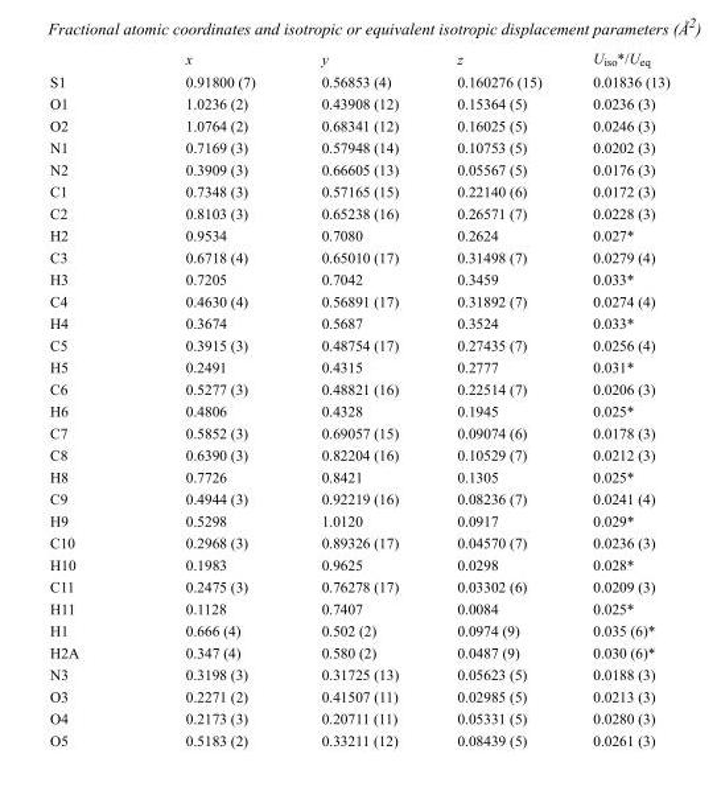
<table><thead><tr><td></td><td>x</td><td>y</td><td>z</td><td>U<sub>iso</sub>*/U<sub>eq</sub></td></tr></thead><tbody><tr><td>S1</td><td>0.91800 (7)</td><td>0.56853 (4)</td><td>0.160276 (15)</td><td>0.01836 (13)</td></tr><tr><td>O1</td><td>1.0236 (2)</td><td>0.43908 (12)</td><td>0.15364 (5)</td><td>0.0236 (3)</td></tr><tr><td>O2</td><td>1.0764 (2)</td><td>0.68341 (12)</td><td>0.16025 (5)</td><td>0.0246 (3)</td></tr><tr><td>N1</td><td>0.7169 (3)</td><td>0.57948 (14)</td><td>0.10753 (5)</td><td>0.0202 (3)</td></tr><tr><td>N2</td><td>0.3909 (3)</td><td>0.66605 (13)</td><td>0.05567 (5)</td><td>0.0176 (3)</td></tr><tr><td>C1</td><td>0.7348 (3)</td><td>0.57165 (15)</td><td>0.22140 (6)</td><td>0.0172 (3)</td></tr><tr><td>C2</td><td>0.8103 (3)</td><td>0.65238 (16)</td><td>0.26571 (7)</td><td>0.0228 (3)</td></tr><tr><td>H2</td><td>0.9534</td><td>0.7080</td><td>0.2624</td><td>0.027*</td></tr><tr><td>C3</td><td>0.6718 (4)</td><td>0.65010 (17)</td><td>0.31498 (7)</td><td>0.0279 (4)</td></tr><tr><td>H3</td><td>0.7205</td><td>0.7042</td><td>0.3459</td><td>0.033*</td></tr><tr><td>C4</td><td>0.4630 (4)</td><td>0.56891 (17)</td><td>0.31892 (7)</td><td>0.0274 (4)</td></tr><tr><td>H4</td><td>0.3674</td><td>0.5687</td><td>0.3524</td><td>0.033*</td></tr><tr><td>C5</td><td>0.3915 (3)</td><td>0.48754 (17)</td><td>0.27435 (7)</td><td>0.0256 (4)</td></tr><tr><td>H5</td><td>0.2491</td><td>0.4315</td><td>0.2777</td><td>0.031*</td></tr><tr><td>C6</td><td>0.5277 (3)</td><td>0.48821 (16)</td><td>0.22514 (7)</td><td>0.0206 (3)</td></tr><tr><td>H6</td><td>0.4806</td><td>0.4328</td><td>0.1945</td><td>0.025*</td></tr><tr><td>C7</td><td>0.5852 (3)</td><td>0.69057 (15)</td><td>0.09074 (6)</td><td>0.0178 (3)</td></tr><tr><td>C8</td><td>0.6390 (3)</td><td>0.82204 (16)</td><td>0.10529 (7)</td><td>0.0212 (3)</td></tr><tr><td>H8</td><td>0.7726</td><td>0.8421</td><td>0.1305</td><td>0.025*</td></tr><tr><td>C9</td><td>0.4944 (3)</td><td>0.92219 (16)</td><td>0.08236 (7)</td><td>0.0241 (4)</td></tr><tr><td>H9</td><td>0.5298</td><td>1.0120</td><td>0.0917</td><td>0.029*</td></tr><tr><td>C10</td><td>0.2968 (3)</td><td>0.89326 (17)</td><td>0.04570 (7)</td><td>0.0236 (3)</td></tr><tr><td>H10</td><td>0.1983</td><td>0.9625</td><td>0.0298</td><td>0.028*</td></tr><tr><td>C11</td><td>0.2475 (3)</td><td>0.76278 (17)</td><td>0.03302 (6)</td><td>0.0209 (3)</td></tr><tr><td>H11</td><td>0.1128</td><td>0.7407</td><td>0.0084</td><td>0.025*</td></tr><tr><td>H1</td><td>0.666 (4)</td><td>0.502 (2)</td><td>0.0974 (9)</td><td>0.035 (6)*</td></tr><tr><td>H2A</td><td>0.347 (4)</td><td>0.580 (2)</td><td>0.0487 (9)</td><td>0.030 (6)*</td></tr><tr><td>N3</td><td>0.3198 (3)</td><td>0.31725 (13)</td><td>0.05623 (5)</td><td>0.0188 (3)</td></tr><tr><td>O3</td><td>0.2271 (2)</td><td>0.41507 (11)</td><td>0.02985 (5)</td><td>0.0213 (3)</td></tr><tr><td>O4</td><td>0.2173 (3)</td><td>0.20711 (11)</td><td>0.05331 (5)</td><td>0.0280 (3)</td></tr><tr><td>O5</td><td>0.5183 (2)</td><td>0.33211 (12)</td><td>0.08439 (5)</td><td>0.0261 (3)</td></tr></tbody></table>